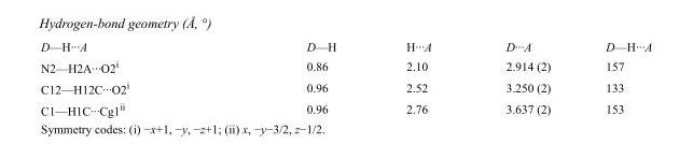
<table><tbody><tr><td>D—H···A</td><td>D—H</td><td>H···A</td><td>D···A</td><td>D—H···A</td></tr><tr><td>N2—H2A···O2<sup>i</sup></td><td>0.86</td><td>2.10</td><td>2.914 (2)</td><td>157</td></tr><tr><td>C12—H12C···O2<sup>i</sup></td><td>0.96</td><td>2.52</td><td>3.250 (2)</td><td>133</td></tr><tr><td>C1—H1C···Cg1<sup>ii</sup></td><td>0.96</td><td>2.76</td><td>3.637 (2)</td><td>153</td></tr></tbody></table>